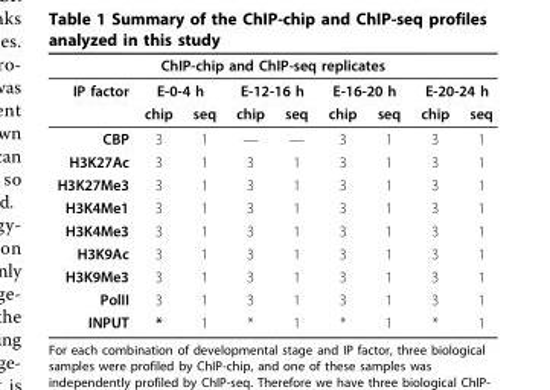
<table><thead><tr><td colspan="9">ChIP-chip and ChIP-seq replicates</td></tr><tr><td rowspan="2">IP factor</td><td colspan="2">E-0-4 h</td><td colspan="2">E-12-16 h</td><td colspan="2">E-16-20 h</td><td colspan="2">E-20-24 h</td></tr><tr><td>chip</td><td>seq</td><td>chip</td><td>seq</td><td>chip</td><td>seq</td><td>chip</td><td>seq</td></tr></thead><tbody><tr><td>CBP</td><td>3</td><td>1</td><td>—</td><td>—</td><td>3</td><td>1</td><td>3</td><td>1</td></tr><tr><td>H3K27Ac</td><td>3</td><td>1</td><td>3</td><td>1</td><td>3</td><td>1</td><td>3</td><td>1</td></tr><tr><td>H3K27Me3</td><td>3</td><td>1</td><td>3</td><td>1</td><td>3</td><td>1</td><td>3</td><td>1</td></tr><tr><td>H3K4Me1</td><td>3</td><td>1</td><td>3</td><td>1</td><td>3</td><td>1</td><td>3</td><td>1</td></tr><tr><td>H3K4Me3</td><td>3</td><td>1</td><td>3</td><td>1</td><td>3</td><td>1</td><td>3</td><td>1</td></tr><tr><td>H3K9Ac</td><td>3</td><td>1</td><td>3</td><td>1</td><td>3</td><td>1</td><td>3</td><td>1</td></tr><tr><td>H3K9Me3</td><td>3</td><td>1</td><td>3</td><td>1</td><td>3</td><td>1</td><td>3</td><td>1</td></tr><tr><td>PolII</td><td>3</td><td>1</td><td>3</td><td>1</td><td>3</td><td>1</td><td>3</td><td>1</td></tr><tr><td>INPUT</td><td>*</td><td>1</td><td>*</td><td>1</td><td>*</td><td>1</td><td>*</td><td>1</td></tr></tbody></table>